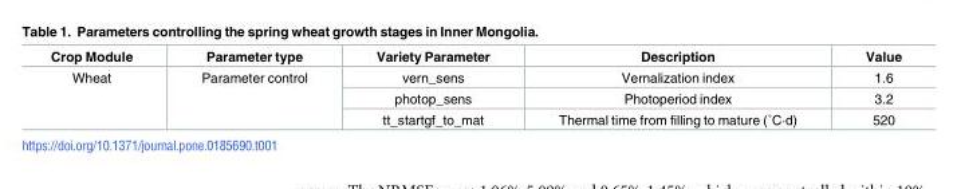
<table><thead><tr><td>Crop Module</td><td>Parameter type</td><td>Variety Parameter</td><td>Description</td><td>Value</td></tr></thead><tbody><tr><td rowspan="3">Wheat</td><td rowspan="3">Parameter control</td><td>vern_sens</td><td>Vernalization index</td><td>1.6</td></tr><tr><td>photop_sens</td><td>Photoperiod index</td><td>3.2</td></tr><tr><td>tt_startgf_to_mat</td><td>Thermal time from filling to mature (˚C·d)</td><td>520</td></tr></tbody></table>